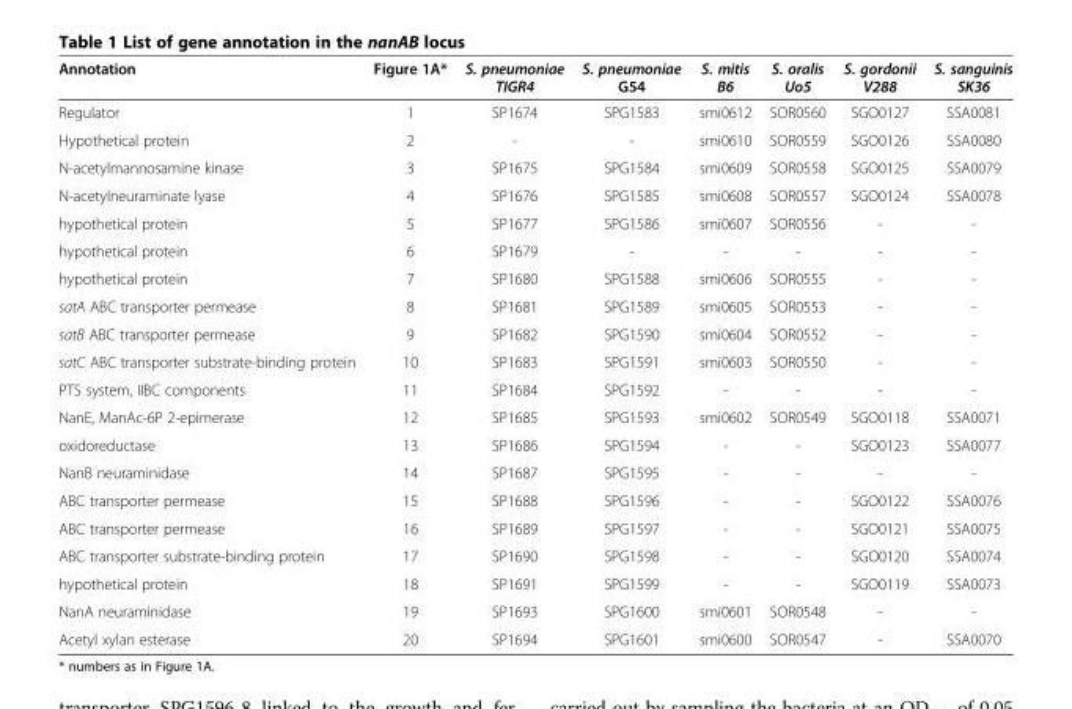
<table><thead><tr><td>Annotation</td><td>Figure 1A*</td><td>S. pneumoniae TIGR4</td><td>S. pneumoniae G54</td><td>S. mitis B6</td><td>S. oralis Uo5</td><td>S. gordonii V288</td><td>S. sanguinis SK36</td></tr></thead><tbody><tr><td>Regulator</td><td>1</td><td>SP1674</td><td>SPG1583</td><td>smi0612</td><td>SOR0560</td><td>SGO0127</td><td>SSA0081</td></tr><tr><td>Hypothetical protein</td><td>2</td><td>-</td><td>-</td><td>smi0610</td><td>SOR0559</td><td>SGO0126</td><td>SSA0080</td></tr><tr><td>N-acetylmannosamine kinase</td><td>3</td><td>SP1675</td><td>SPG1584</td><td>smi0609</td><td>SOR0558</td><td>SGO0125</td><td>SSA0079</td></tr><tr><td>N-acetylneuraminate lyase</td><td>4</td><td>SP1676</td><td>SPG1585</td><td>smi0608</td><td>SOR0557</td><td>SGO0124</td><td>SSA0078</td></tr><tr><td>hypothetical protein</td><td>5</td><td>SP1677</td><td>SPG1586</td><td>smi0607</td><td>SOR0556</td><td>-</td><td>-</td></tr><tr><td>hypothetical protein</td><td>6</td><td>SP1679</td><td>-</td><td>-</td><td>-</td><td>-</td><td>-</td></tr><tr><td>hypothetical protein</td><td>7</td><td>SP1680</td><td>SPG1588</td><td>smi0606</td><td>SOR0555</td><td>-</td><td>-</td></tr><tr><td>satA ABC transporter permease</td><td>8</td><td>SP1681</td><td>SPG1589</td><td>smi0605</td><td>SOR0553</td><td>-</td><td>-</td></tr><tr><td>satB ABC transporter permease</td><td>9</td><td>SP1682</td><td>SPG1590</td><td>smi0604</td><td>SOR0552</td><td>-</td><td>-</td></tr><tr><td>satC ABC transporter substrate-binding protein</td><td>10</td><td>SP1683</td><td>SPG1591</td><td>smi0603</td><td>SOR0550</td><td>-</td><td>-</td></tr><tr><td>PTS system, IIBC components</td><td>11</td><td>SP1684</td><td>SPG1592</td><td>-</td><td>-</td><td>-</td><td>-</td></tr><tr><td>NanE, ManAc-6P 2-epimerase</td><td>12</td><td>SP1685</td><td>SPG1593</td><td>smi0602</td><td>SOR0549</td><td>SGO0118</td><td>SSA0071</td></tr><tr><td>oxidoreductase</td><td>13</td><td>SP1686</td><td>SPG1594</td><td>-</td><td>-</td><td>SGO0123</td><td>SSA0077</td></tr><tr><td>NanB neuraminidase</td><td>14</td><td>SP1687</td><td>SPG1595</td><td>-</td><td>-</td><td>-</td><td>-</td></tr><tr><td>ABC transporter permease</td><td>15</td><td>SP1688</td><td>SPG1596</td><td>-</td><td>-</td><td>SGO0122</td><td>SSA0076</td></tr><tr><td>ABC transporter permease</td><td>16</td><td>SP1689</td><td>SPG1597</td><td>-</td><td>-</td><td>SGO0121</td><td>SSA0075</td></tr><tr><td>ABC transporter substrate-binding protein</td><td>17</td><td>SP1690</td><td>SPG1598</td><td>-</td><td>-</td><td>SGO0120</td><td>SSA0074</td></tr><tr><td>hypothetical protein</td><td>18</td><td>SP1691</td><td>SPG1599</td><td>-</td><td>-</td><td>SGO0119</td><td>SSA0073</td></tr><tr><td>NanA neuraminidase</td><td>19</td><td>SP1693</td><td>SPG1600</td><td>smi0601</td><td>SOR0548</td><td>-</td><td>-</td></tr><tr><td>Acetyl xylan esterase</td><td>20</td><td>SP1694</td><td>SPG1601</td><td>smi0600</td><td>SOR0547</td><td>-</td><td>SSA0070</td></tr></tbody></table>